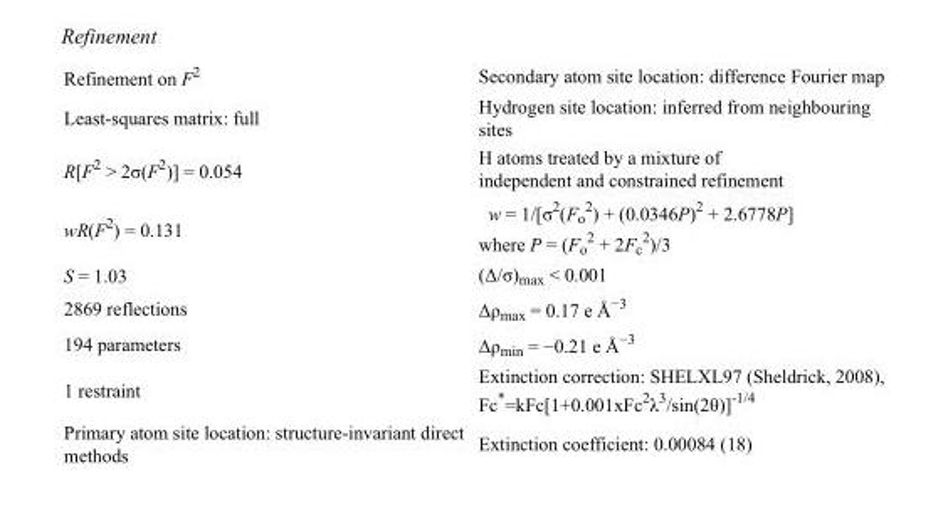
<table><tbody><tr><td>Refinement on F<sup>2</sup></td><td>Secondary atom site location: difference Fourier map</td></tr><tr><td>Least-squares matrix: full</td><td>Hydrogen site location: inferred from neighbouring sites</td></tr><tr><td>R[F<sup>2</sup> &gt; 2σ(F<sup>2</sup>)] = 0.054</td><td>H atoms treated by a mixture of independent and constrained refinement</td></tr><tr><td>wR(F<sup>2</sup>) = 0.131</td><td>w = 1/[σ<sup>2</sup>(F<sub>o</sub> <sup>2</sup>) + (0.0346P)<sup>2</sup> + 2.6778P] where P = (F<sub>o</sub> <sup>2</sup> + 2F<sub>c</sub> <sup>2</sup>)/3</td></tr><tr><td>S = 1.03</td><td>(Δ/σ)<sub>max</sub> &lt; 0.001</td></tr><tr><td>2869 reflections</td><td>Δρ<sub>max</sub> = 0.17 e Å<sup>−3</sup></td></tr><tr><td>194 parameters</td><td>Δρ<sub>min</sub> = −0.21 e Å<sup>−3</sup></td></tr><tr><td>1 restraint</td><td>Extinction correction: SHELXL97 (Sheldrick, 2008), Fc*=kFc[1+0.001xFc<sup>2</sup>λ<sup>3</sup>/sin(2θ)]<sup>-1/4</sup></td></tr><tr><td>Primary atom site location: structure-invariant direct methods</td><td>Extinction coefficient: 0.00084 (18)</td></tr></tbody></table>